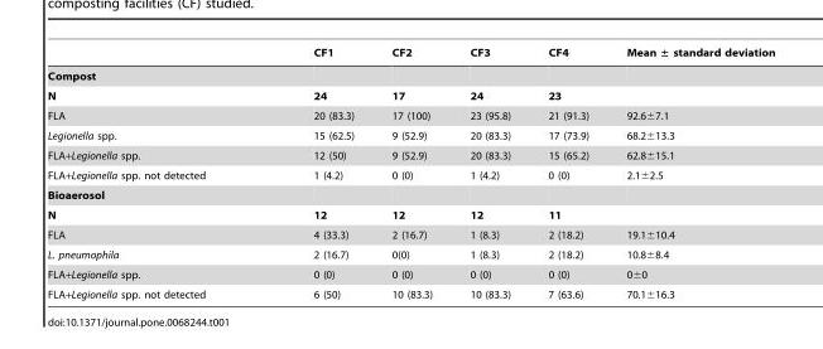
<table><thead><tr><td></td><td>CF1</td><td>CF2</td><td>CF3</td><td>CF4</td><td>Mean ± standard deviation</td></tr></thead><tbody><tr><td colspan="6">Compost</td></tr><tr><td>N</td><td>24</td><td>17</td><td>24</td><td>23</td><td></td></tr><tr><td>FLA</td><td>20 (83.3)</td><td>17 (100)</td><td>23 (95.8)</td><td>21 (91.3)</td><td>92.6±7.1</td></tr><tr><td>Legionella spp.</td><td>15 (62.5)</td><td>9 (52.9)</td><td>20 (83.3)</td><td>17 (73.9)</td><td>68.2±13.3</td></tr><tr><td>FLA+Legionella spp.</td><td>12 (50)</td><td>9 (52.9)</td><td>20 (83.3)</td><td>15 (65.2)</td><td>62.8±15.1</td></tr><tr><td>FLA+Legionella spp. not detected</td><td>1 (4.2)</td><td>0 (0)</td><td>1 (4.2)</td><td>0 (0)</td><td>2.1±2.5</td></tr><tr><td colspan="6">Bioaerosol</td></tr><tr><td>N</td><td>12</td><td>12</td><td>12</td><td>11</td><td></td></tr><tr><td>FLA</td><td>4 (33.3)</td><td>2 (16.7)</td><td>1 (8.3)</td><td>2 (18.2)</td><td>19.1±10.4</td></tr><tr><td>L. pneumophila</td><td>2 (16.7)</td><td>0(0)</td><td>1 (8.3)</td><td>2 (18.2)</td><td>10.8±8.4</td></tr><tr><td>FLA+Legionella spp.</td><td>0 (0)</td><td>0 (0)</td><td>0 (0)</td><td>0 (0)</td><td>0±0</td></tr><tr><td>FLA+Legionella spp. not detected</td><td>6 (50)</td><td>10 (83.3)</td><td>10 (83.3)</td><td>7 (63.6)</td><td>70.1±16.3</td></tr></tbody></table>